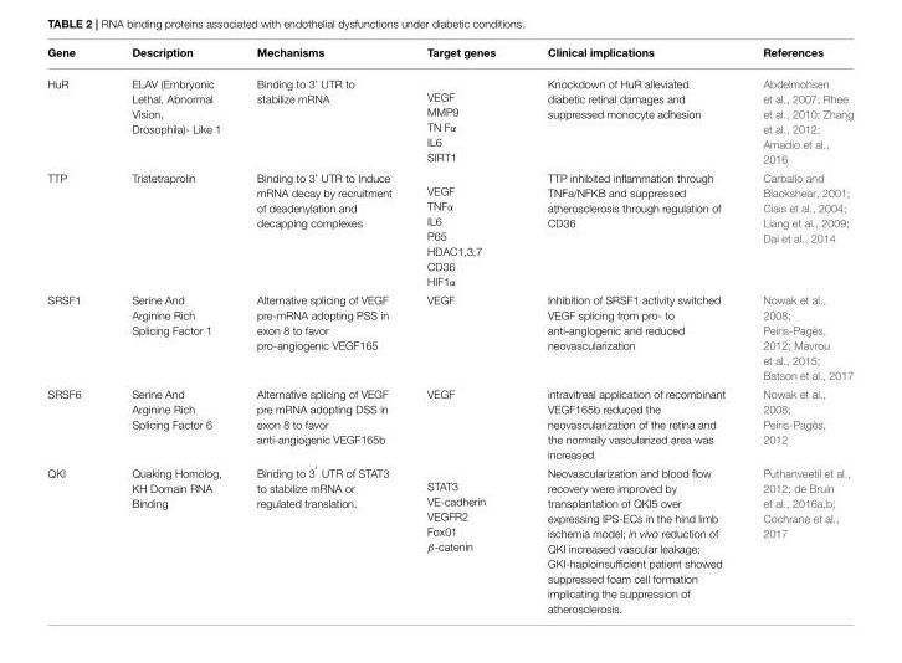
<table><thead><tr><td>Gene</td><td>Description</td><td>Mechanisms</td><td>Target genes</td><td>Clinical implications</td><td>References</td></tr></thead><tbody><tr><td>HuR</td><td>ELAV (Embryonic Lethal, Abnormal Vision, Drosophila)- Like 1</td><td>Binding to 3’ UTR to stabilize mRNA</td><td>VEGF MMP9 TN Fα IL6 SIRT1</td><td>Knockdown of HuR alleviated diabetic retinal damages and suppressed monocyte adhesion</td><td>Abdelmohsen et al., 2007; Rhee et al., 2010; Zhang et al., 2012; Amadio et al., 2016</td></tr><tr><td>TTP</td><td>Tristetraprolin</td><td>Binding to 3’ UTR to Induce mRNA decay by recruitment of deadenylation and decapping complexes</td><td>VEGF TNFα IL6 P65 HDAC1,3,7 CD36 HIF1α</td><td>TTP inhibited inflammation through TNFa/NFKB and suppressed atherosclerosis through regulation of CD36</td><td>Carballo and Blackshear, 2001; Ciais et al., 2004; Liang et al., 2009; Dai et al., 2014</td></tr><tr><td>SRSF1</td><td>Serine And Arginine Rich Splicing Factor 1</td><td>Alternative splicing of VEGF pre-mRNA adopting PSS in exon 8 to favor pro-angiogenic VEGF165</td><td>VEGF</td><td>Inhibition of SRSF1 activity switched VEGF splicing from pro- to anti-anglogenic and reduced neovascularization</td><td>Nowak et al., 2008; Peiris-Pagès, 2012; Mavrou et al., 2015; Batson et al., 2017</td></tr><tr><td>SRSF6</td><td>Serine And Arginine Rich Splicing Factor 6</td><td>Alternative splicing of VEGF pre mRNA adopting DSS in exon 8 to favor anti-angiogenic VEGF165b</td><td>VEGF</td><td>intravitreal application of recombinant VEGF165b reduced the neovascularization of the retina and the normally vascularized area was increased</td><td>Nowak et al., 2008; Peiris-Pagès, 2012</td></tr><tr><td>QKI</td><td>Quaking Homolog, KH Domain RNA Binding</td><td>Binding to 3 ′ UTR of STAT3 to stabilize mRNA or regulated translation.</td><td>STAT3 VE-cadherin VEGFR2 Fox01 β-catenin</td><td>Neovascularization and blood flow recovery were improved by transplantation of QKI5 over expressing IPS-ECs in the hind limb ischemia model; in vivo reduction of QKI increased vascular leakage; GKI-haploinsufficient patient showed suppressed foam cell formation implicating the suppression of atherosclerosis.</td><td>Puthanveetil et al., 2012; de Bruin et al., 2016a,b; Cochrane et al., 2017</td></tr></tbody></table>